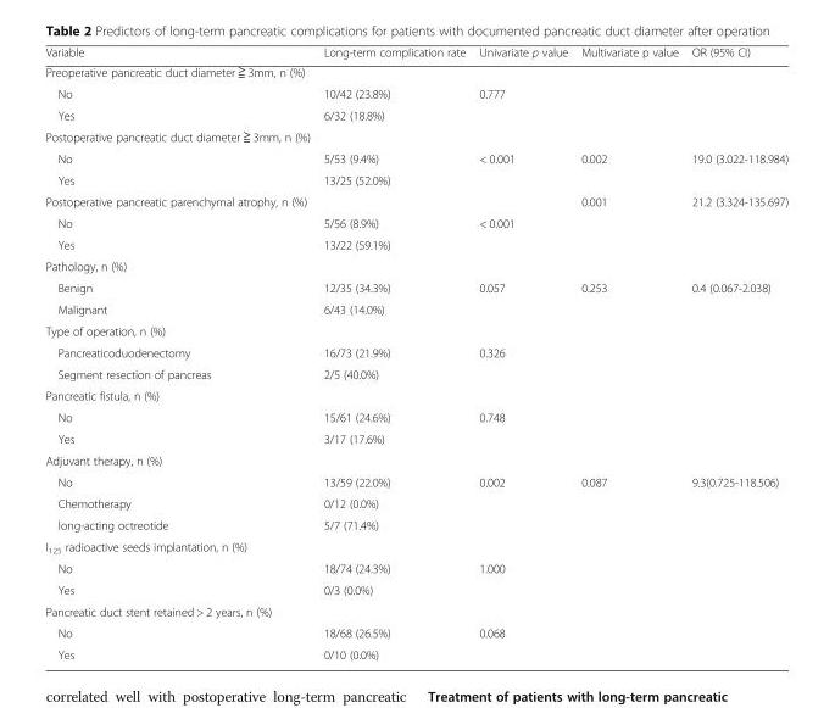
<table><thead><tr><td>Variable</td><td>Long-term complication rate</td><td>Univariate p value</td><td>Multivariate p value</td><td>OR (95% CI)</td></tr></thead><tbody><tr><td colspan="5">Preoperative pancreatic duct diameter ≧ 3mm, n (%)</td></tr><tr><td>No</td><td>10/42 (23.8%)</td><td>0.777</td><td></td><td></td></tr><tr><td>Yes</td><td>6/32 (18.8%)</td><td></td><td></td><td></td></tr><tr><td colspan="5">Postoperative pancreatic duct diameter ≧ 3mm, n (%)</td></tr><tr><td>No</td><td>5/53 (9.4%)</td><td>&lt; 0.001</td><td>0.002</td><td>19.0 (3.022-118.984)</td></tr><tr><td>Yes</td><td>13/25 (52.0%)</td><td></td><td></td><td></td></tr><tr><td>Postoperative pancreatic parenchymal atrophy, n (%)</td><td></td><td></td><td>0.001</td><td>21.2 (3.324-135.697)</td></tr><tr><td>No</td><td>5/56 (8.9%)</td><td>&lt; 0.001</td><td></td><td></td></tr><tr><td>Yes</td><td>13/22 (59.1%)</td><td></td><td></td><td></td></tr><tr><td colspan="5">Pathology, n (%)</td></tr><tr><td>Benign</td><td>12/35 (34.3%)</td><td>0.057</td><td>0.253</td><td>0.4 (0.067-2.038)</td></tr><tr><td>Malignant</td><td>6/43 (14.0%)</td><td></td><td></td><td></td></tr><tr><td colspan="5">Type of operation, n (%)</td></tr><tr><td>Pancreaticoduodenectomy</td><td>16/73 (21.9%)</td><td>0.326</td><td></td><td></td></tr><tr><td>Segment resection of pancreas</td><td>2/5 (40.0%)</td><td></td><td></td><td></td></tr><tr><td colspan="5">Pancreatic fistula, n (%)</td></tr><tr><td>No</td><td>15/61 (24.6%)</td><td>0.748</td><td></td><td></td></tr><tr><td>Yes</td><td>3/17 (17.6%)</td><td></td><td></td><td></td></tr><tr><td colspan="5">Adjuvant therapy, n (%)</td></tr><tr><td>No</td><td>13/59 (22.0%)</td><td>0.002</td><td>0.087</td><td>9.3(0.725-118.506)</td></tr><tr><td>Chemotherapy</td><td>0/12 (0.0%)</td><td></td><td></td><td></td></tr><tr><td>long-acting octreotide</td><td>5/7 (71.4%)</td><td></td><td></td><td></td></tr><tr><td colspan="5">I<sub>125</sub> radioactive seeds implantation, n (%)</td></tr><tr><td>No</td><td>18/74 (24.3%)</td><td>1.000</td><td></td><td></td></tr><tr><td>Yes</td><td>0/3 (0.0%)</td><td></td><td></td><td></td></tr><tr><td colspan="5">Pancreatic duct stent retained &gt; 2 years, n (%)</td></tr><tr><td>No</td><td>18/68 (26.5%)</td><td>0.068</td><td></td><td></td></tr><tr><td>Yes</td><td>0/10 (0.0%)</td><td></td><td></td><td></td></tr></tbody></table>